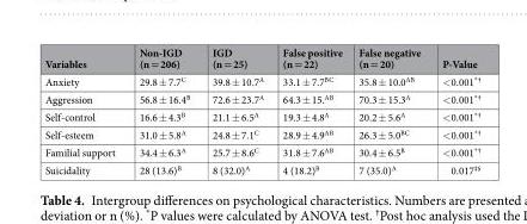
<table><thead><tr><td>Variables</td><td>Non-IGD (n = 206)</td><td>IGD (n = 25)</td><td>False positive (n = 22)</td><td>False negative (n = 20)</td><td>P-Value</td></tr></thead><tbody><tr><td>Anxiety</td><td>29.8 ± 7.7<sup>C</sup></td><td>39.8 ± 10.7<sup>A</sup></td><td>33.1 ± 7.7<sup>BC</sup></td><td>35.8 ± 10.0<sup>AB</sup></td><td>&lt;0.001<sup>*†</sup></td></tr><tr><td>Aggression</td><td>56.8 ± 16.4<sup>B</sup></td><td>72.6 ± 23.7<sup>A</sup></td><td>64.3 ± 15.<sup>AB</sup></td><td>70.3 ± 15.3<sup>A</sup></td><td>&lt;0.001<sup>*†</sup></td></tr><tr><td>Self-control</td><td>16.6 ± 4.3<sup>B</sup></td><td>21.1 ± 6.5<sup>A</sup></td><td>19.3 ± 4.8<sup>A</sup></td><td>20.2 ± 5.6<sup>A</sup></td><td>&lt;0.001<sup>*†</sup></td></tr><tr><td>Self-esteem</td><td>31.0 ± 5.8<sup>A</sup></td><td>24.8 ± 7.1<sup>C</sup></td><td>28.9 ± 4.9<sup>AB</sup></td><td>26.3 ± 5.0<sup>BC</sup></td><td>&lt;0.001<sup>*†</sup></td></tr><tr><td>Familial support</td><td>34.4 ± 6.3<sup>A</sup></td><td>25.7 ± 8.6<sup>C</sup></td><td>31.8 ± 7.6<sup>AB</sup></td><td>30.4 ± 6.5<sup>B</sup></td><td>&lt;0.001<sup>*†</sup></td></tr><tr><td>Suicidality</td><td>28 (13.6)<sup>B</sup></td><td>8 (32.0)<sup>A</sup></td><td>4 (18.2)<sup>B</sup></td><td>7 (35.0)<sup>A</sup></td><td>0.017<sup>‡§</sup></td></tr></tbody></table>